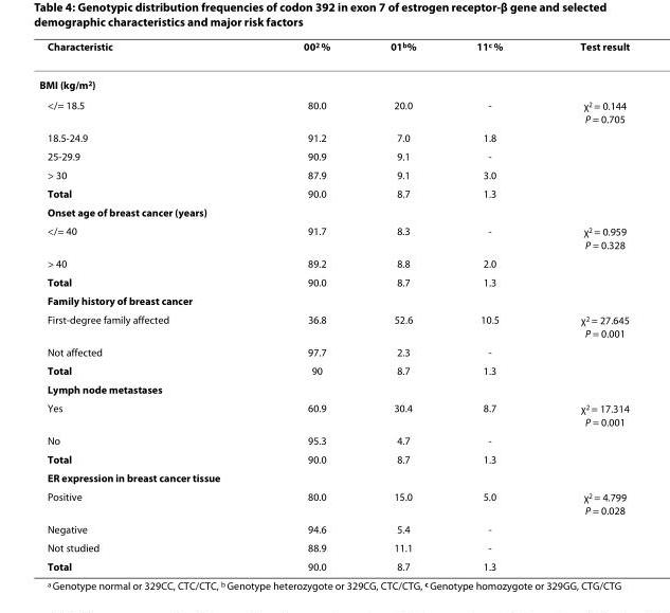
<table><thead><tr><td>Characteristic</td><td>00<sup>2</sup> %</td><td>01<sup>b</sup>%</td><td>11<sup>c</sup> %</td><td>Test result</td></tr></thead><tbody><tr><td colspan="5">BMI (kg/m<sup>2</sup>)</td></tr><tr><td>&lt;/= 18.5</td><td>80.0</td><td>20.0</td><td>-</td><td>χ<sup>2</sup> = 0.144 P = 0.705</td></tr><tr><td>18.5-24.9</td><td>91.2</td><td>7.0</td><td>1.8</td><td></td></tr><tr><td>25-29.9</td><td>90.9</td><td>9.1</td><td>-</td><td></td></tr><tr><td>&gt; 30</td><td>87.9</td><td>9.1</td><td>3.0</td><td></td></tr><tr><td>Total</td><td>90.0</td><td>8.7</td><td>1.3</td><td></td></tr><tr><td colspan="5">Onset age of breast cancer (years)</td></tr><tr><td>&lt;/= 40</td><td>91.7</td><td>8.3</td><td>-</td><td>χ<sup>2</sup> = 0.959 P = 0.328</td></tr><tr><td>&gt; 40</td><td>89.2</td><td>8.8</td><td>2.0</td><td></td></tr><tr><td>Total</td><td>90.0</td><td>8.7</td><td>1.3</td><td></td></tr><tr><td colspan="5">Family history of breast cancer</td></tr><tr><td>First-degree family affected</td><td>36.8</td><td>52.6</td><td>10.5</td><td>χ<sup>2</sup> = 27.645 P = 0.001</td></tr><tr><td>Not affected</td><td>97.7</td><td>2.3</td><td>-</td><td></td></tr><tr><td>Total</td><td>90</td><td>8.7</td><td>1.3</td><td></td></tr><tr><td colspan="5">Lymph node metastases</td></tr><tr><td>Yes</td><td>60.9</td><td>30.4</td><td>8.7</td><td>χ<sup>2</sup> = 17.314 P = 0.001</td></tr><tr><td>No</td><td>95.3</td><td>4.7</td><td>-</td><td></td></tr><tr><td>Total</td><td>90.0</td><td>8.7</td><td>1.3</td><td></td></tr><tr><td colspan="5">ER expression in breast cancer tissue</td></tr><tr><td>Positive</td><td>80.0</td><td>15.0</td><td>5.0</td><td>χ<sup>2</sup> = 4.799 P = 0.028</td></tr><tr><td>Negative</td><td>94.6</td><td>5.4</td><td>-</td><td></td></tr><tr><td>Not studied</td><td>88.9</td><td>11.1</td><td>-</td><td></td></tr><tr><td>Total</td><td>90.0</td><td>8.7</td><td>1.3</td><td></td></tr></tbody></table>